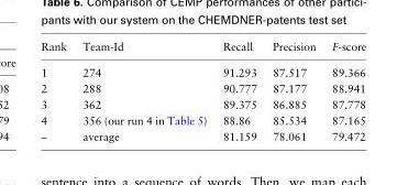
<table><thead><tr><td>Rank</td><td>Team-Id</td><td>Recall</td><td>Precision</td><td>F-score</td></tr></thead><tbody><tr><td>1</td><td>274</td><td>91.293</td><td>87.517</td><td>89.366</td></tr><tr><td>2</td><td>288</td><td>90.777</td><td>87.177</td><td>88.941</td></tr><tr><td>3</td><td>362</td><td>89.375</td><td>86.885</td><td>87.778</td></tr><tr><td>4</td><td>356 (our run 4 in Table 5)</td><td>88.86</td><td>85.534</td><td>87.165</td></tr><tr><td>–</td><td>average</td><td>81.159</td><td>78.061</td><td>79.472</td></tr></tbody></table>